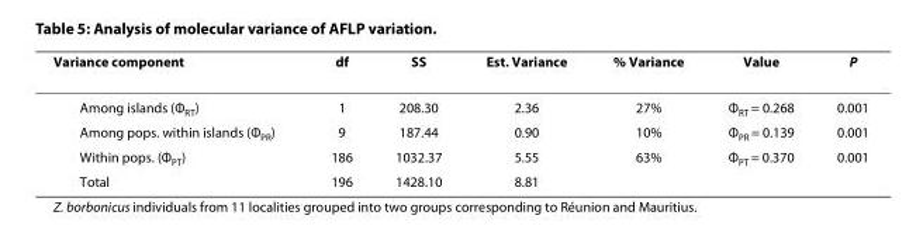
<table><thead><tr><td>Variance component</td><td>df</td><td>SS</td><td>Est. Variance</td><td>% Variance</td><td>Value</td><td>P</td></tr></thead><tbody><tr><td>Among islands (Φ<sub>RT</sub>)</td><td>1</td><td>208.30</td><td>2.36</td><td>27%</td><td>Φ<sub>RT</sub> = 0.268</td><td>0.001</td></tr><tr><td>Among pops. within islands (Φ<sub>PR</sub>)</td><td>9</td><td>187.44</td><td>0.90</td><td>10%</td><td>Φ<sub>PR</sub> = 0.139</td><td>0.001</td></tr><tr><td>Within pops. (Φ<sub>PT</sub>)</td><td>186</td><td>1032.37</td><td>5.55</td><td>63%</td><td>Φ<sub>PT</sub> = 0.370</td><td>0.001</td></tr><tr><td>Total</td><td>196</td><td>1428.10</td><td>8.81</td><td></td><td></td><td></td></tr></tbody></table>